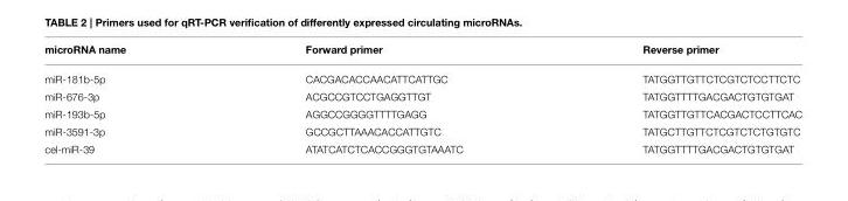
<table><thead><tr><td>microRNA name</td><td>Forward primer</td><td>Reverse primer</td></tr></thead><tbody><tr><td>miR-181b-5p</td><td>CACGACACCAACATTCATTGC</td><td>TATGGTTGTTCTCGTCTCCTTCTC</td></tr><tr><td>miR-676-3p</td><td>ACGCCGTCCTGAGGTTGT</td><td>TATGGTTTTGACGACTGTGTGAT</td></tr><tr><td>miR-193b-5p</td><td>AGGCCGGGGTTTTGAGG</td><td>TATGGTTGTTCACGACTCCTTCAC</td></tr><tr><td>miR-3591-3p</td><td>GCCGCTTAAACACCATTGTC</td><td>TATGCTTGTTCTCGTCTCTGTGTC</td></tr><tr><td>cel-miR-39</td><td>ATATCATCTCACCGGGTGTAAATC</td><td>TATGGTTTTGACGACTGTGTGAT</td></tr></tbody></table>